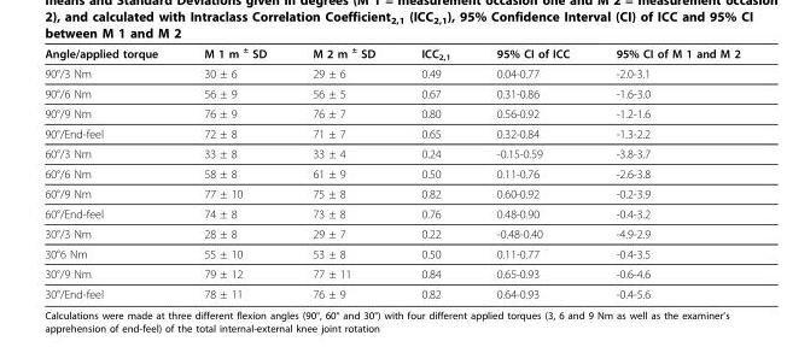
<table><thead><tr><td>Angle/applied torque</td><td>M 1 m <sup>±</sup> SD</td><td>M 2 m <sup>±</sup> SD</td><td>ICC<sub>2,1</sub></td><td>95% CI of ICC</td><td>95% CI of M 1 and M 2</td></tr></thead><tbody><tr><td>90°/3 Nm</td><td>30 ± 6</td><td>29 ± 6</td><td>0.49</td><td>0.04-0.77</td><td>-2.0-3.1</td></tr><tr><td>90°/6 Nm</td><td>56 ± 9</td><td>56 ± 5</td><td>0.67</td><td>0.31-0.86</td><td>-1.6-3.0</td></tr><tr><td>90°/9 Nm</td><td>76 ± 9</td><td>76 ± 7</td><td>0.80</td><td>0.56-0.92</td><td>-1.2-1.6</td></tr><tr><td>90°/End-feel</td><td>72 ± 8</td><td>71 ± 7</td><td>0.65</td><td>0.32-0.84</td><td>-1.3-2.2</td></tr><tr><td>60°/3 Nm</td><td>33 ± 8</td><td>33 ± 4</td><td>0.24</td><td>-0.15-0.59</td><td>-3.8-3.7</td></tr><tr><td>60°/6 Nm</td><td>58 ± 8</td><td>61 ± 9</td><td>0.50</td><td>0.11-0.76</td><td>-2.6-3.8</td></tr><tr><td>60°/9 Nm</td><td>77 ± 10</td><td>75 ± 8</td><td>0.82</td><td>0.60-0.92</td><td>-0.2-3.9</td></tr><tr><td>60°/End-feel</td><td>74 ± 8</td><td>73 ± 8</td><td>0.76</td><td>0.48-0.90</td><td>-0.4-3.2</td></tr><tr><td>30°/3 Nm</td><td>28 ± 8</td><td>29 ± 7</td><td>0.22</td><td>-0.48-0.40</td><td>-4.9-2.9</td></tr><tr><td>30°6 Nm</td><td>55 ± 10</td><td>53 ± 8</td><td>0.50</td><td>0.11-0.77</td><td>-0.4-3.5</td></tr><tr><td>30°/9 Nm</td><td>79 ± 12</td><td>77 ± 11</td><td>0.84</td><td>0.65-0.93</td><td>-0.6-4.6</td></tr><tr><td>30°/End-feel</td><td>78 ± 11</td><td>76 ± 9</td><td>0.82</td><td>0.64-0.93</td><td>-0.4-5.6</td></tr></tbody></table>